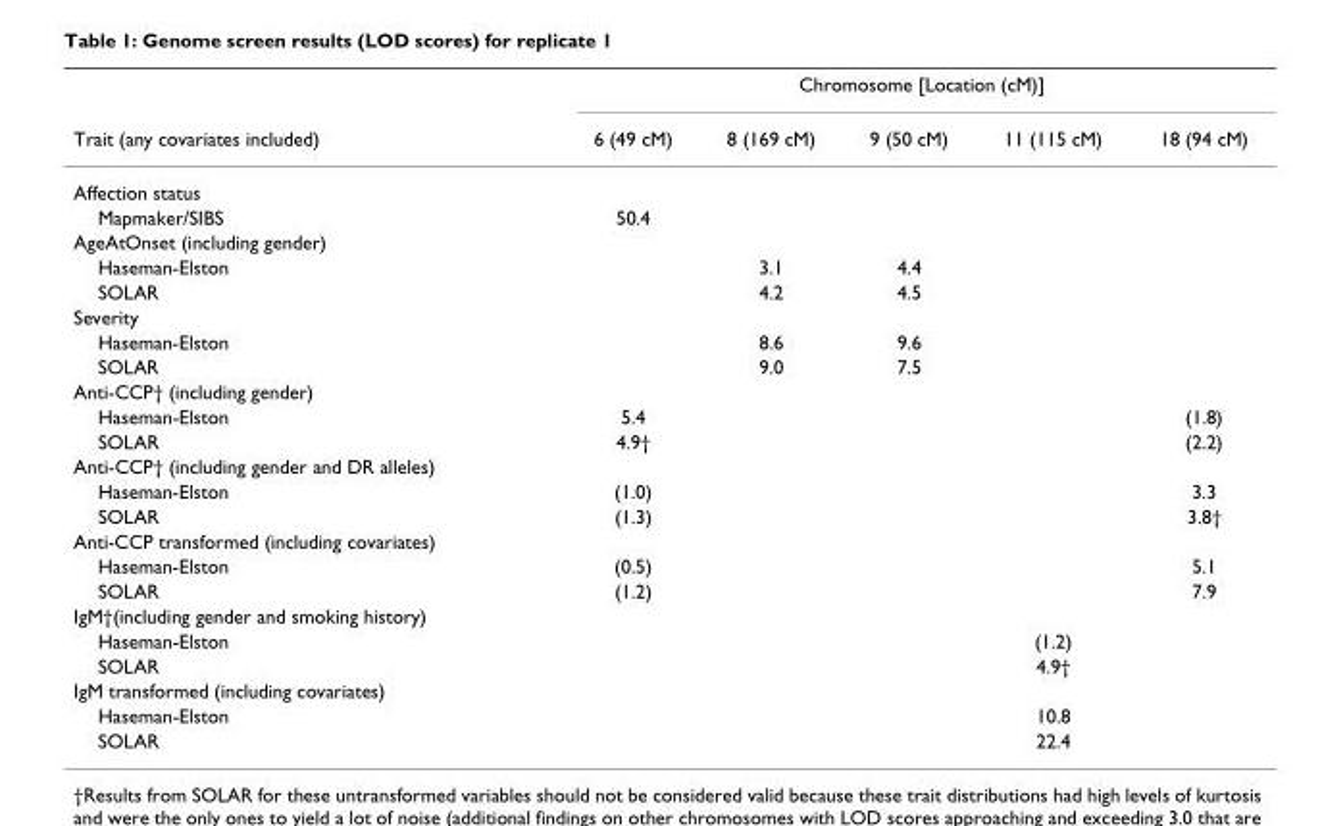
<table><thead><tr><td rowspan="2">Trait (any covariates included)</td><td colspan="5">Chromosome [Location (cM)]</td></tr><tr><td>6 (49 cM)</td><td>8 (169 cM)</td><td>9 (50 cM)</td><td>11 (115 cM)</td><td>18 (94 cM)</td></tr></thead><tbody><tr><td colspan="6">Affection status</td></tr><tr><td>Mapmaker/SIBS</td><td>50.4</td><td></td><td></td><td></td><td></td></tr><tr><td colspan="6">AgeAtOnset (including gender)</td></tr><tr><td>Haseman-Elston</td><td></td><td>3.1</td><td>4.4</td><td></td><td></td></tr><tr><td>SOLAR</td><td></td><td>4.2</td><td>4.5</td><td></td><td></td></tr><tr><td colspan="6">Severity</td></tr><tr><td>Haseman-Elston</td><td></td><td>8.6</td><td>9.6</td><td></td><td></td></tr><tr><td>SOLAR</td><td></td><td>9.0</td><td>7.5</td><td></td><td></td></tr><tr><td colspan="6">Anti-CCP† (including gender)</td></tr><tr><td>Haseman-Elston</td><td>5.4</td><td></td><td></td><td></td><td>(1.8)</td></tr><tr><td>SOLAR</td><td>4.9†</td><td></td><td></td><td></td><td>(2.2)</td></tr><tr><td colspan="6">Anti-CCP† (including gender and DR alleles)</td></tr><tr><td>Haseman-Elston</td><td>(1.0)</td><td></td><td></td><td></td><td>3.3</td></tr><tr><td>SOLAR</td><td>(1.3)</td><td></td><td></td><td></td><td>3.8†</td></tr><tr><td colspan="6">Anti-CCP transformed (including covariates)</td></tr><tr><td>Haseman-Elston</td><td>(0.5)</td><td></td><td></td><td></td><td>5.1</td></tr><tr><td>SOLAR</td><td>(1.2)</td><td></td><td></td><td></td><td>7.9</td></tr><tr><td colspan="6">IgM†(including gender and smoking history)</td></tr><tr><td>Haseman-Elston</td><td></td><td></td><td></td><td>(1.2)</td><td></td></tr><tr><td>SOLAR</td><td></td><td></td><td></td><td>4.9†</td><td></td></tr><tr><td colspan="6">IgM transformed (including covariates)</td></tr><tr><td>Haseman-Elston</td><td></td><td></td><td></td><td>10.8</td><td></td></tr><tr><td>SOLAR</td><td></td><td></td><td></td><td>22.4</td><td></td></tr></tbody></table>